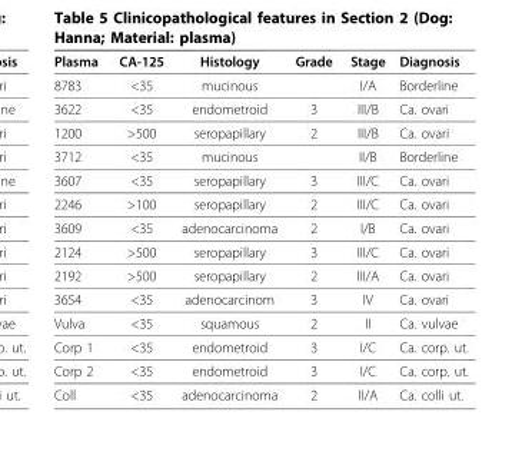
<table><thead><tr><td>Plasma</td><td>CA-125</td><td>Histology</td><td>Grade</td><td>Stage</td><td>Diagnosis</td></tr></thead><tbody><tr><td>8783</td><td>&lt;35</td><td>mucinous</td><td></td><td>I/A</td><td>Borderline</td></tr><tr><td>3622</td><td>&lt;35</td><td>endometroid</td><td>3</td><td>III/B</td><td>Ca. ovari</td></tr><tr><td>1200</td><td>&gt;500</td><td>seropapillary</td><td>2</td><td>III/B</td><td>Ca. ovari</td></tr><tr><td>3712</td><td>&lt;35</td><td>mucinous</td><td></td><td>II/B</td><td>Borderline</td></tr><tr><td>3607</td><td>&lt;35</td><td>seropapillary</td><td>3</td><td>III/C</td><td>Ca. ovari</td></tr><tr><td>2246</td><td>&gt;100</td><td>seropapillary</td><td>2</td><td>III/C</td><td>Ca. ovari</td></tr><tr><td>3609</td><td>&lt;35</td><td>adenocarcinoma</td><td>2</td><td>I/B</td><td>Ca. ovari</td></tr><tr><td>2124</td><td>&gt;500</td><td>seropapillary</td><td>3</td><td>III/C</td><td>Ca. ovari</td></tr><tr><td>2192</td><td>&gt;500</td><td>seropapillary</td><td>2</td><td>III/A</td><td>Ca. ovari</td></tr><tr><td>3654</td><td>&lt;35</td><td>adenocarcinom</td><td>3</td><td>IV</td><td>Ca. ovari</td></tr><tr><td>Vulva</td><td>&lt;35</td><td>squamous</td><td>2</td><td>II</td><td>Ca. vulvae</td></tr><tr><td>Corp 1</td><td>&lt;35</td><td>endometroid</td><td>3</td><td>I/C</td><td>Ca. corp. ut.</td></tr><tr><td>Corp 2</td><td>&lt;35</td><td>endometroid</td><td>3</td><td>I/C</td><td>Ca. corp. ut.</td></tr><tr><td>Coll</td><td>&lt;35</td><td>adenocarcinoma</td><td>2</td><td>II/A</td><td>Ca. colli ut.</td></tr></tbody></table>